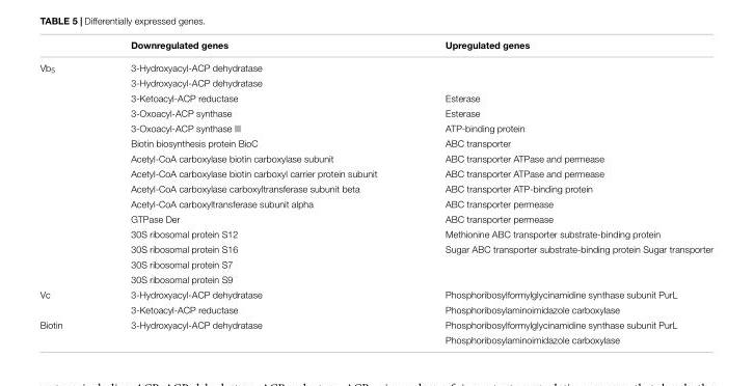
<table><thead><tr><td></td><td>Downregulated genes</td><td>Upregulated genes</td></tr></thead><tbody><tr><td rowspan="15">Vb<sub>5</sub></td><td>3-Hydroxyacyl-ACP dehydratase</td><td></td></tr><tr><td>3-Hydroxyacyl-ACP dehydratase</td><td></td></tr><tr><td>3-Ketoacyl-ACP reductase</td><td>Esterase</td></tr><tr><td>3-Oxoacyl-ACP synthase</td><td>Esterase</td></tr><tr><td>3-Oxoacyl-ACP synthase III</td><td>ATP-binding protein</td></tr><tr><td>Biotin biosynthesis protein BioC</td><td>ABC transporter</td></tr><tr><td>Acetyl-CoA carboxylase biotin carboxylase subunit</td><td>ABC transporter ATPase and permease</td></tr><tr><td>Acetyl-CoA carboxylase biotin carboxyl carrier protein subunit</td><td>ABC transporter ATPase and permease</td></tr><tr><td>Acetyl-CoA carboxylase carboxyltransferase subunit beta</td><td>ABC transporter ATP-binding protein</td></tr><tr><td>Acetyl-CoA carboxyltransferase subunit alpha</td><td>ABC transporter permease</td></tr><tr><td>GTPase Der</td><td>ABC transporter permease</td></tr><tr><td>30S ribosomal protein S12</td><td>Methionine ABC transporter substrate-binding protein</td></tr><tr><td>30S ribosomal protein S16</td><td>Sugar ABC transporter substrate-binding protein Sugar transporter</td></tr><tr><td>30S ribosomal protein S7</td><td></td></tr><tr><td>30S ribosomal protein S9</td><td></td></tr><tr><td rowspan="2">Vc</td><td>3-Hydroxyacyl-ACP dehydratase</td><td>Phosphoribosylformylglycinamidine synthase subunit PurL</td></tr><tr><td>3-Ketoacyl-ACP reductase</td><td>Phosphoribosylaminoimidazole carboxylase</td></tr><tr><td rowspan="2">Biotin</td><td>3-Hydroxyacyl-ACP dehydratase</td><td>Phosphoribosylformylglycinamidine synthase subunit PurL</td></tr><tr><td></td><td>Phosphoribosylaminoimidazole carboxylase</td></tr></tbody></table>